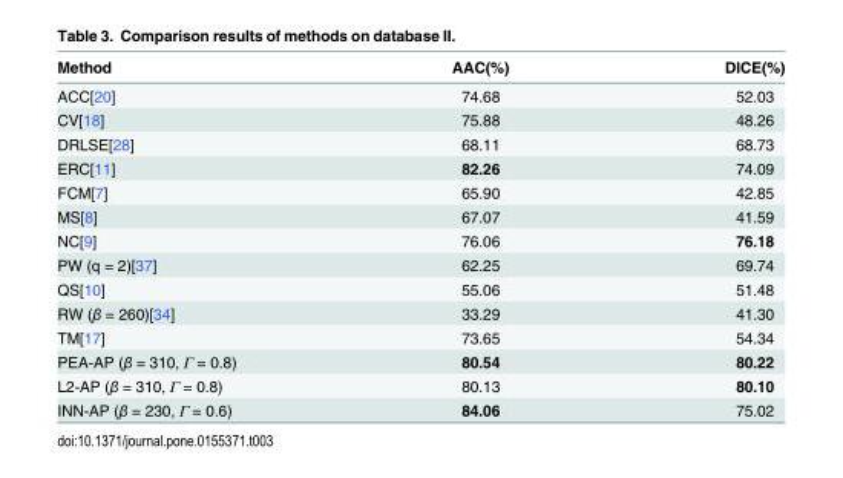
<table><thead><tr><td>Method</td><td>AAC(%)</td><td>DICE(%)</td></tr></thead><tbody><tr><td>ACC[20]</td><td>74.68</td><td>52.03</td></tr><tr><td>CV[18]</td><td>75.88</td><td>48.26</td></tr><tr><td>DRLSE[28]</td><td>68.11</td><td>68.73</td></tr><tr><td>ERC[11]</td><td>82.26</td><td>74.09</td></tr><tr><td>FCM[7]</td><td>65.90</td><td>42.85</td></tr><tr><td>MS[8]</td><td>67.07</td><td>41.59</td></tr><tr><td>NC[9]</td><td>76.06</td><td>76.18</td></tr><tr><td>PW (q = 2)[37]</td><td>62.25</td><td>69.74</td></tr><tr><td>QS[10]</td><td>55.06</td><td>51.48</td></tr><tr><td>RW (β = 260)[34]</td><td>33.29</td><td>41.30</td></tr><tr><td>TM[17]</td><td>73.65</td><td>54.34</td></tr><tr><td>PEA-AP (β = 310, Γ = 0.8)</td><td>80.54</td><td>80.22</td></tr><tr><td>L2-AP (β = 310, Γ = 0.8)</td><td>80.13</td><td>80.10</td></tr><tr><td>INN-AP (β = 230, Γ = 0.6)</td><td>84.06</td><td>75.02</td></tr></tbody></table>